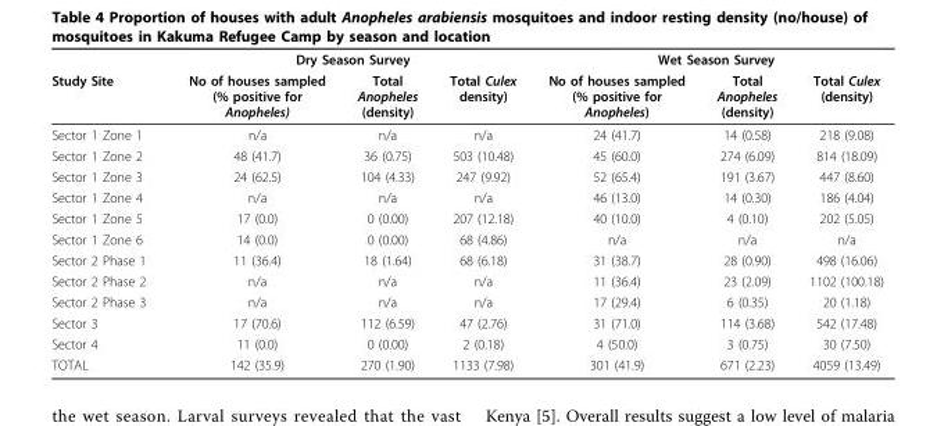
<table><thead><tr><td rowspan="2">Study Site</td><td colspan="3">Dry Season Survey</td><td colspan="3">Wet Season Survey</td></tr><tr><td>No of houses sampled (% positive for Anopheles)</td><td>Total Anopheles (density)</td><td>Total Culex density)</td><td>No of houses sampled (% positive for Anopheles)</td><td>Total Anopheles (density)</td><td>Total Culex (density)</td></tr></thead><tbody><tr><td>Sector 1 Zone 1</td><td>n/a</td><td>n/a</td><td>n/a</td><td>24 (41.7)</td><td>14 (0.58)</td><td>218 (9.08)</td></tr><tr><td>Sector 1 Zone 2</td><td>48 (41.7)</td><td>36 (0.75)</td><td>503 (10.48)</td><td>45 (60.0)</td><td>274 (6.09)</td><td>814 (18.09)</td></tr><tr><td>Sector 1 Zone 3</td><td>24 (62.5)</td><td>104 (4.33)</td><td>247 (9.92)</td><td>52 (65.4)</td><td>191 (3.67)</td><td>447 (8.60)</td></tr><tr><td>Sector 1 Zone 4</td><td>n/a</td><td>n/a</td><td>n/a</td><td>46 (13.0)</td><td>14 (0.30)</td><td>186 (4.04)</td></tr><tr><td>Sector 1 Zone 5</td><td>17 (0.0)</td><td>0 (0.00)</td><td>207 (12.18)</td><td>40 (10.0)</td><td>4 (0.10)</td><td>202 (5.05)</td></tr><tr><td>Sector 1 Zone 6</td><td>14 (0.0)</td><td>0 (0.00)</td><td>68 (4.86)</td><td>n/a</td><td>n/a</td><td>n/a</td></tr><tr><td>Sector 2 Phase 1</td><td>11 (36.4)</td><td>18 (1.64)</td><td>68 (6.18)</td><td>31 (38.7)</td><td>28 (0.90)</td><td>498 (16.06)</td></tr><tr><td>Sector 2 Phase 2</td><td>n/a</td><td>n/a</td><td>n/a</td><td>11 (36.4)</td><td>23 (2.09)</td><td>1102 (100.18)</td></tr><tr><td>Sector 2 Phase 3</td><td>n/a</td><td>n/a</td><td>n/a</td><td>17 (29.4)</td><td>6 (0.35)</td><td>20 (1.18)</td></tr><tr><td>Sector 3</td><td>17 (70.6)</td><td>112 (6.59)</td><td>47 (2.76)</td><td>31 (71.0)</td><td>114 (3.68)</td><td>542 (17.48)</td></tr><tr><td>Sector 4</td><td>11 (0.0)</td><td>0 (0.00)</td><td>2 (0.18)</td><td>4 (50.0)</td><td>3 (0.75)</td><td>30 (7.50)</td></tr><tr><td>TOTAL</td><td>142 (35.9)</td><td>270 (1.90)</td><td>1133 (7.98)</td><td>301 (41.9)</td><td>671 (2.23)</td><td>4059 (13.49)</td></tr></tbody></table>